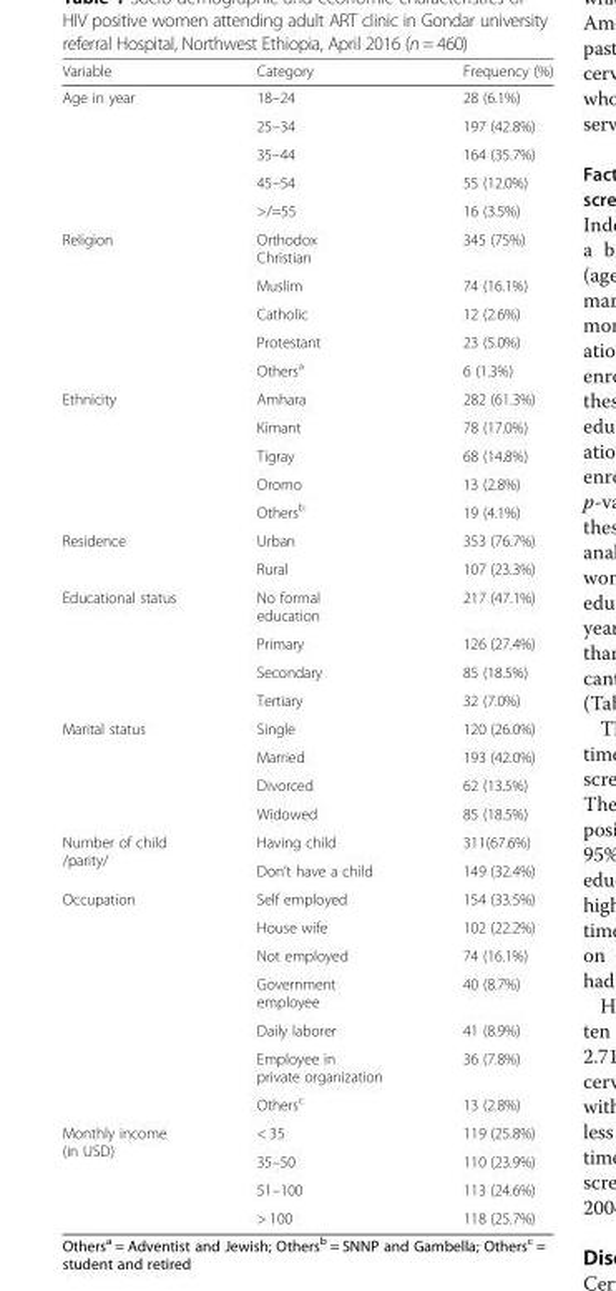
<table><thead><tr><td>Variable</td><td>Category</td><td>Frequency (%)</td></tr></thead><tbody><tr><td rowspan="5">Age in year</td><td>18–24</td><td>28 (6.1%)</td></tr><tr><td>25–34</td><td>197 (42.8%)</td></tr><tr><td>35–44</td><td>164 (35.7%)</td></tr><tr><td>45–54</td><td>55 (12.0%)</td></tr><tr><td>&gt;/=55</td><td>16 (3.5%)</td></tr><tr><td rowspan="5">Religion</td><td>Orthodox Christian</td><td>345 (75%)</td></tr><tr><td>Muslim</td><td>74 (16.1%)</td></tr><tr><td>Catholic</td><td>12 (2.6%)</td></tr><tr><td>Protestant</td><td>23 (5.0%)</td></tr><tr><td>Others<sup>a</sup></td><td>6 (1.3%)</td></tr><tr><td rowspan="5">Ethnicity</td><td>Amhara</td><td>282 (61.3%)</td></tr><tr><td>Kimant</td><td>78 (17.0%)</td></tr><tr><td>Tigray</td><td>68 (14.8%)</td></tr><tr><td>Oromo</td><td>13 (2.8%)</td></tr><tr><td>Others<sup>b</sup></td><td>19 (4.1%)</td></tr><tr><td rowspan="2">Residence</td><td>Urban</td><td>353 (76.7%)</td></tr><tr><td>Rural</td><td>107 (23.3%)</td></tr><tr><td rowspan="4">Educational status</td><td>No formal education</td><td>217 (47.1%)</td></tr><tr><td>Primary</td><td>126 (27.4%)</td></tr><tr><td>Secondary</td><td>85 (18.5%)</td></tr><tr><td>Tertiary</td><td>32 (7.0%)</td></tr><tr><td rowspan="4">Marital status</td><td>Single</td><td>120 (26.0%)</td></tr><tr><td>Married</td><td>193 (42.0%)</td></tr><tr><td>Divorced</td><td>62 (13.5%)</td></tr><tr><td>Widowed</td><td>85 (18.5%)</td></tr><tr><td rowspan="2">Number of child /parity/</td><td>Having child</td><td>311(67.6%)</td></tr><tr><td>Don’t have a child</td><td>149 (32.4%)</td></tr><tr><td rowspan="7">Occupation</td><td>Self employed</td><td>154 (33.5%)</td></tr><tr><td>House wife</td><td>102 (22.2%)</td></tr><tr><td>Not employed</td><td>74 (16.1%)</td></tr><tr><td>Government employee</td><td>40 (8.7%)</td></tr><tr><td>Daily laborer</td><td>41 (8.9%)</td></tr><tr><td>Employee in private organization</td><td>36 (7.8%)</td></tr><tr><td>Others<sup>c</sup></td><td>13 (2.8%)</td></tr><tr><td rowspan="4">Monthly income (in USD)</td><td>&lt; 35</td><td>119 (25.8%)</td></tr><tr><td>35–50</td><td>110 (23.9%)</td></tr><tr><td>51–100</td><td>113 (24.6%)</td></tr><tr><td>&gt; 100</td><td>118 (25.7%)</td></tr></tbody></table>